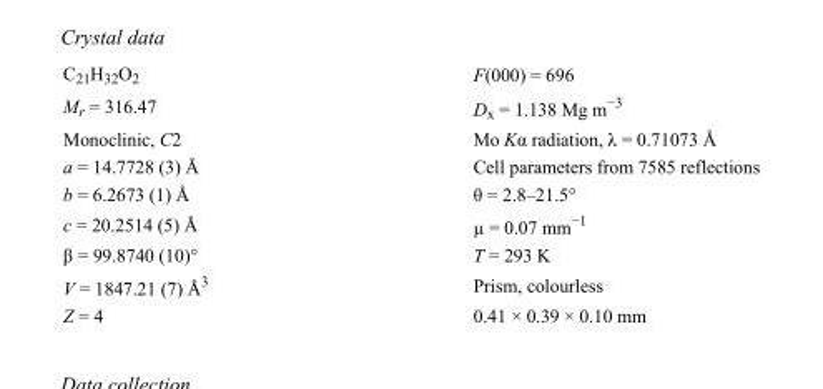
<table><tbody><tr><td>C<sub>21</sub>H<sub>32</sub>O<sub>2</sub></td><td>F(000) = 696</td></tr><tr><td>M<sub>r</sub> = 316.47</td><td>D<sub>x</sub> = 1.138 Mg m<sup>−3</sup></td></tr><tr><td>Monoclinic, C2</td><td>Mo Kα radiation, λ = 0.71073 Å</td></tr><tr><td>a = 14.7728 (3) Å</td><td>Cell parameters from 7585 reflections</td></tr><tr><td>b = 6.2673 (1) Å</td><td>θ = 2.8–21.5°</td></tr><tr><td>c = 20.2514 (5) Å</td><td>µ = 0.07 mm<sup>−1</sup></td></tr><tr><td>β = 99.8740 (10)°</td><td>T = 293 K</td></tr><tr><td>V = 1847.21 (7) Å<sup>3</sup></td><td>Prism, colourless</td></tr><tr><td>Z = 4</td><td>0.41 × 0.39 × 0.10 mm</td></tr></tbody></table>